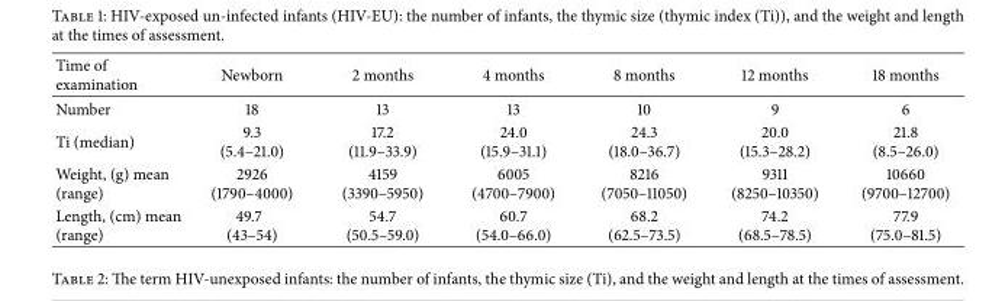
<table><thead><tr><td>Time of examination</td><td>Newborn</td><td>2 months</td><td>4 months</td><td>8 months</td><td>12 months</td><td>18 months</td></tr></thead><tbody><tr><td>Number</td><td>18</td><td>13</td><td>13</td><td>10</td><td>9</td><td>6</td></tr><tr><td>Ti (median)</td><td>9.3 (5.4–21.0)</td><td>17.2 (11.9–33.9)</td><td>24.0 (15.9–31.1)</td><td>24.3 (18.0–36.7)</td><td>20.0 (15.3–28.2)</td><td>21.8 (8.5–26.0)</td></tr><tr><td>Weight, (g) mean (range)</td><td>2926 (1790–4000)</td><td>4159 (3390–5950)</td><td>6005 (4700–7900)</td><td>8216 (7050–11050)</td><td>9311 (8250–10350)</td><td>10660 (9700–12700)</td></tr><tr><td>Length, (cm) mean (range)</td><td>49.7 (43–54)</td><td>54.7 (50.5–59.0)</td><td>60.7 (54.0–66.0)</td><td>68.2 (62.5–73.5)</td><td>74.2 (68.5–78.5)</td><td>77.9 (75.0–81.5)</td></tr></tbody></table>